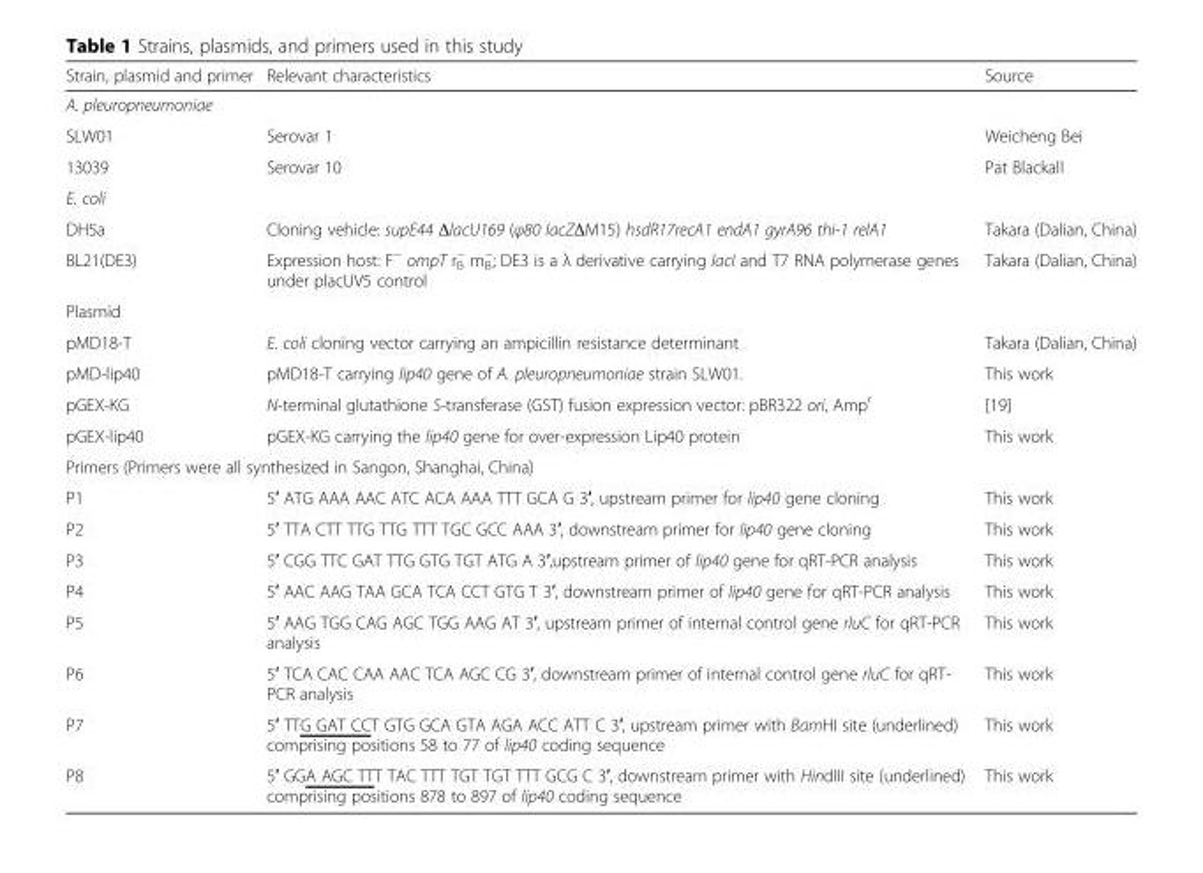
<table><thead><tr><td>Strain, plasmid and primer</td><td>Relevant characteristics</td><td>Source</td></tr></thead><tbody><tr><td colspan="3">A. pleuropneumoniae</td></tr><tr><td>SLW01</td><td>Serovar 1</td><td>Weicheng Bei</td></tr><tr><td>13039</td><td>Serovar 10</td><td>Pat Blackall</td></tr><tr><td colspan="3">E. coli</td></tr><tr><td>DH5a</td><td>Cloning vehicle: supE44 ΔlacU169 (φ80 lacZΔM15) hsdR17recA1 endA1 gyrA96 thi-1 relA1</td><td>Takara (Dalian, China)</td></tr><tr><td>BL21(DE3)</td><td>Expression host: F<sup>−</sup> ompT r<sup>−</sup> <sub>B</sub> m<sup>−</sup> <sub>B</sub>; DE3 is a λ derivative carrying lacI and T7 RNA polymerase genes under placUV5 control</td><td>Takara (Dalian, China)</td></tr><tr><td colspan="3">Plasmid</td></tr><tr><td>pMD18-T</td><td>E. coli cloning vector carrying an ampicillin resistance determinant</td><td>Takara (Dalian, China)</td></tr><tr><td>pMD-lip40</td><td>pMD18-T carrying lip40 gene of A. pleuropneumoniae strain SLW01.</td><td>This work</td></tr><tr><td>pGEX-KG</td><td>N-terminal glutathione S-transferase (GST) fusion expression vector: pBR322 ori, Amp<sup>r</sup></td><td>[19]</td></tr><tr><td>pGEX-lip40</td><td>pGEX-KG carrying the lip40 gene for over-expression Lip40 protein</td><td>This work</td></tr><tr><td colspan="3">Primers (Primers were all synthesized in Sangon, Shanghai, China)</td></tr><tr><td>P1</td><td>5′ ATG AAA AAC ATC ACA AAA TTT GCA G 3′, upstream primer for lip40 gene cloning</td><td>This work</td></tr><tr><td>P2</td><td>5′ TTA CTT TTG TTG TTT TGC GCC AAA 3′, downstream primer for lip40 gene cloning</td><td>This work</td></tr><tr><td>P3</td><td>5′ CGG TTC GAT TTG GTG TGT ATG A 3′,upstream primer of lip40 gene for qRT-PCR analysis</td><td>This work</td></tr><tr><td>P4</td><td>5′ AAC AAG TAA GCA TCA CCT GTG T 3′, downstream primer of lip40 gene for qRT-PCR analysis</td><td>This work</td></tr><tr><td>P5</td><td>5′ AAG TGG CAG AGC TGG AAG AT 3′, upstream primer of internal control gene rluC for qRT-PCR analysis</td><td>This work</td></tr><tr><td>P6</td><td>5′ TCA CAC CAA AAC TCA AGC CG 3′, downstream primer of internal control gene rluC for qRT- PCR analysis</td><td>This work</td></tr><tr><td>P7</td><td>5′ TTG GAT CCT GTG GCA GTA AGA ACC ATT C 3′, upstream primer with BamHI site (underlined) comprising positions 58 to 77 of lip40 coding sequence</td><td>This work</td></tr><tr><td>P8</td><td>5′ GGA AGC TTT TAC TTT TGT TGT TTT GCG C 3′, downstream primer with HindIII site (underlined) comprising positions 878 to 897 of lip40 coding sequence</td><td>This work</td></tr></tbody></table>